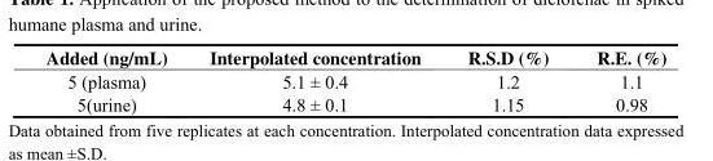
<table><thead><tr><td>Added (ng/mL)</td><td>Interpolated concentration</td><td>R.S.D (%)</td><td>R.E. (%)</td></tr></thead><tbody><tr><td>5 (plasma)</td><td>5.1 ± 0.4</td><td>1.2</td><td>1.1</td></tr><tr><td>5(urine)</td><td>4.8 ± 0.1</td><td>1.15</td><td>0.98</td></tr></tbody></table>